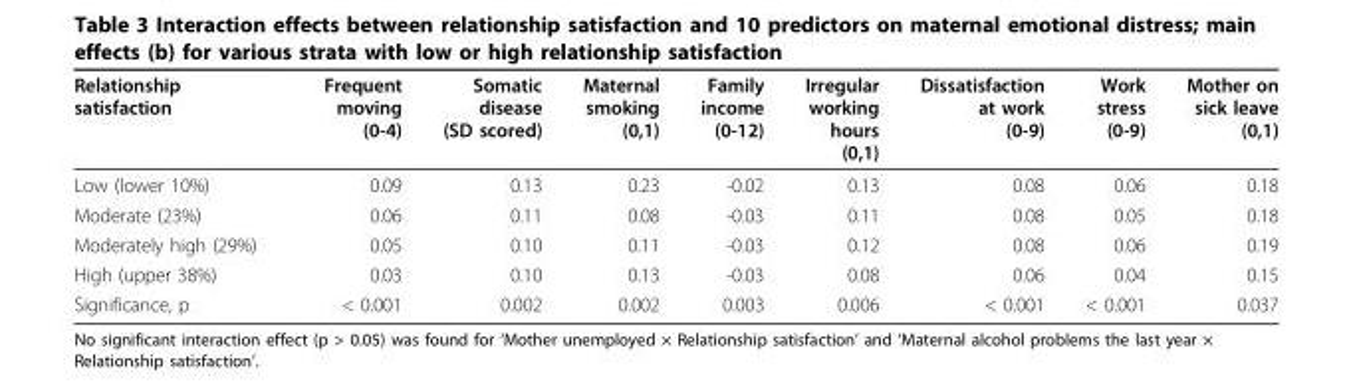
<table><thead><tr><td>Relationship satisfaction</td><td>Frequent moving (0-4)</td><td>Somatic disease (SD scored)</td><td>Maternal smoking (0,1)</td><td>Family income (0-12)</td><td>Irregular working hours (0,1)</td><td>Dissatisfaction at work (0-9)</td><td>Work stress (0-9)</td><td>Mother on sick leave (0,1)</td></tr></thead><tbody><tr><td>Low (lower 10%)</td><td>0.09</td><td>0.13</td><td>0.23</td><td>-0.02</td><td>0.13</td><td>0.08</td><td>0.06</td><td>0.18</td></tr><tr><td>Moderate (23%)</td><td>0.06</td><td>0.11</td><td>0.08</td><td>-0.03</td><td>0.11</td><td>0.08</td><td>0.05</td><td>0.18</td></tr><tr><td>Moderately high (29%)</td><td>0.05</td><td>0.10</td><td>0.11</td><td>-0.03</td><td>0.12</td><td>0.08</td><td>0.06</td><td>0.19</td></tr><tr><td>High (upper 38%)</td><td>0.03</td><td>0.10</td><td>0.13</td><td>-0.03</td><td>0.08</td><td>0.06</td><td>0.04</td><td>0.15</td></tr><tr><td>Significance, p</td><td>&lt; 0.001</td><td>0.002</td><td>0.002</td><td>0.003</td><td>0.006</td><td>&lt; 0.001</td><td>&lt; 0.001</td><td>0.037</td></tr></tbody></table>